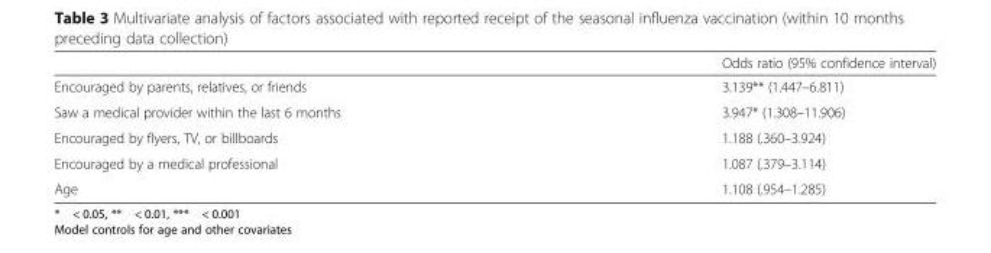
<table><thead><tr><td></td><td>Odds ratio (95% confidence interval)</td></tr></thead><tbody><tr><td>Encouraged by parents, relatives, or friends</td><td>3.139** (1.447–6.811)</td></tr><tr><td>Saw a medical provider within the last 6 months</td><td>3.947* (1.308–11.906)</td></tr><tr><td>Encouraged by flyers, TV, or billboards</td><td>1.188 (.360–3.924)</td></tr><tr><td>Encouraged by a medical professional</td><td>1.087 (.379–3.114)</td></tr><tr><td>Age</td><td>1.108 (.954–1.285)</td></tr></tbody></table>